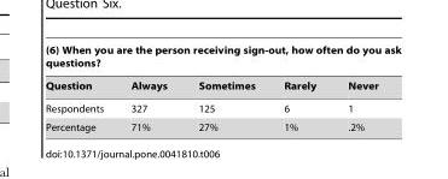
<table><thead><tr><td colspan="5">(6) When you are the person receiving sign-out, how often do you ask questions?</td></tr><tr><td>Question</td><td>Always</td><td>Sometimes</td><td>Rarely</td><td>Never</td></tr></thead><tbody><tr><td>Respondents</td><td>327</td><td>125</td><td>6</td><td>1</td></tr><tr><td>Percentage</td><td>71%</td><td>27%</td><td>1%</td><td>.2%</td></tr></tbody></table>